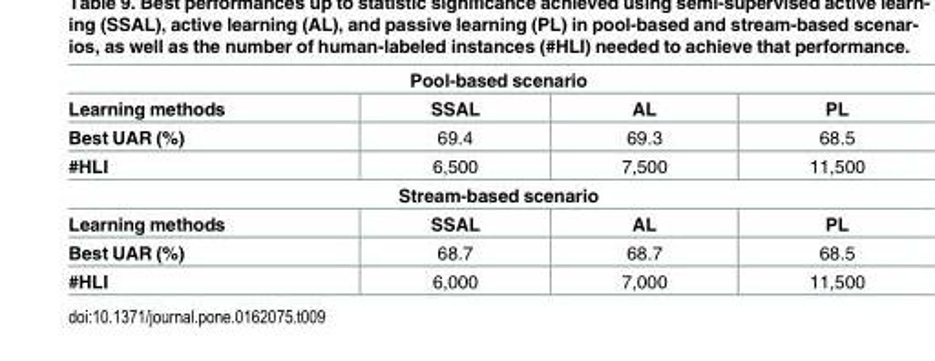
<table><tbody><tr><td colspan="4">Pool-based scenario</td></tr><tr><td>Learning methods</td><td>SSAL</td><td>AL</td><td>PL</td></tr><tr><td>Best UAR (%)</td><td>69.4</td><td>69.3</td><td>68.5</td></tr><tr><td>#HLI</td><td>6,500</td><td>7,500</td><td>11,500</td></tr><tr><td colspan="4">Stream-based scenario</td></tr><tr><td>Learning methods</td><td>SSAL</td><td>AL</td><td>PL</td></tr><tr><td>Best UAR (%)</td><td>68.7</td><td>68.7</td><td>68.5</td></tr><tr><td>#HLI</td><td>6,000</td><td>7,000</td><td>11,500</td></tr></tbody></table>